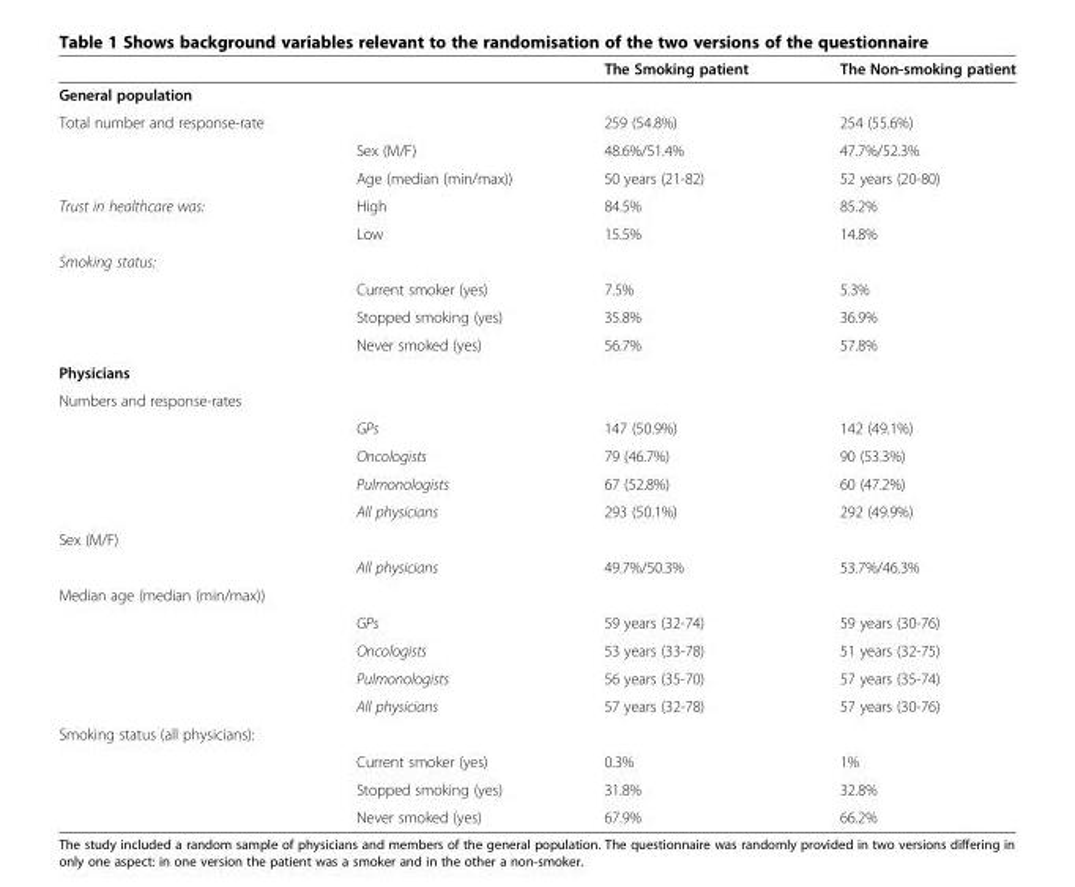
<table><thead><tr><td></td><td></td><td>The Smoking patient</td><td>The Non-smoking patient</td></tr></thead><tbody><tr><td colspan="4">General population</td></tr><tr><td rowspan="3">Total number and response-rate</td><td></td><td>259 (54.8%)</td><td>254 (55.6%)</td></tr><tr><td>Sex (M/F)</td><td>48.6%/51.4%</td><td>47.7%/52.3%</td></tr><tr><td>Age (median (min/max))</td><td>50 years (21-82)</td><td>52 years (20-80)</td></tr><tr><td rowspan="2">Trust in healthcare was:</td><td>High</td><td>84.5%</td><td>85.2%</td></tr><tr><td>Low</td><td>15.5%</td><td>14.8%</td></tr><tr><td colspan="4">Smoking status:</td></tr><tr><td></td><td>Current smoker (yes)</td><td>7.5%</td><td>5.3%</td></tr><tr><td></td><td>Stopped smoking (yes)</td><td>35.8%</td><td>36.9%</td></tr><tr><td></td><td>Never smoked (yes)</td><td>56.7%</td><td>57.8%</td></tr><tr><td colspan="4">Physicians</td></tr><tr><td colspan="4">Numbers and response-rates</td></tr><tr><td></td><td>GPs</td><td>147 (50.9%)</td><td>142 (49.1%)</td></tr><tr><td></td><td>Oncologists</td><td>79 (46.7%)</td><td>90 (53.3%)</td></tr><tr><td></td><td>Pulmonologists</td><td>67 (52.8%)</td><td>60 (47.2%)</td></tr><tr><td></td><td>All physicians</td><td>293 (50.1%)</td><td>292 (49.9%)</td></tr><tr><td colspan="4">Sex (M/F)</td></tr><tr><td></td><td>All physicians</td><td>49.7%/50.3%</td><td>53.7%/46.3%</td></tr><tr><td colspan="4">Median age (median (min/max))</td></tr><tr><td></td><td>GPs</td><td>59 years (32-74)</td><td>59 years (30-76)</td></tr><tr><td></td><td>Oncologists</td><td>53 years (33-78)</td><td>51 years (32-75)</td></tr><tr><td></td><td>Pulmonologists</td><td>56 years (35-70)</td><td>57 years (35-74)</td></tr><tr><td></td><td>All physicians</td><td>57 years (32-78)</td><td>57 years (30-76)</td></tr><tr><td colspan="4">Smoking status (all physicians):</td></tr><tr><td></td><td>Current smoker (yes)</td><td>0.3%</td><td>1%</td></tr><tr><td></td><td>Stopped smoking (yes)</td><td>31.8%</td><td>32.8%</td></tr><tr><td></td><td>Never smoked (yes)</td><td>67.9%</td><td>66.2%</td></tr></tbody></table>